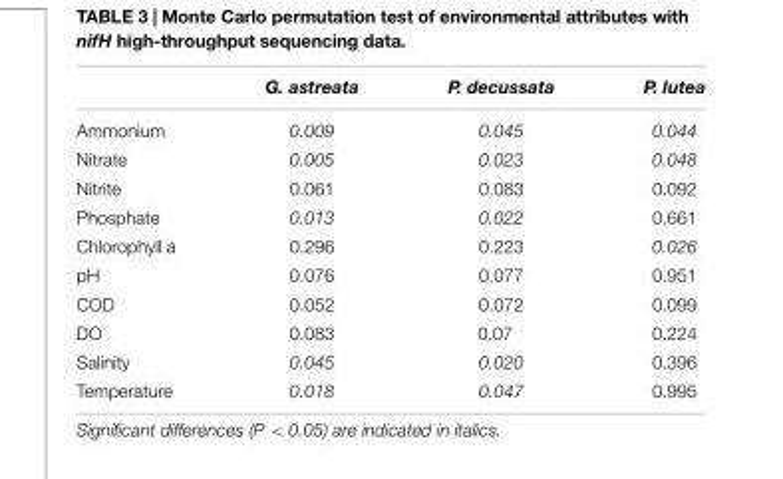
<table><thead><tr><td></td><td>G. astreata</td><td>P. decussata</td><td>P. lutea</td></tr></thead><tbody><tr><td>Ammonium</td><td>0.009</td><td>0.045</td><td>0.044</td></tr><tr><td>Nitrate</td><td>0.005</td><td>0.023</td><td>0.048</td></tr><tr><td>Nitrite</td><td>0.061</td><td>0.083</td><td>0.092</td></tr><tr><td>Phosphate</td><td>0.013</td><td>0.022</td><td>0.661</td></tr><tr><td>Chlorophyll a</td><td>0.296</td><td>0.223</td><td>0.026</td></tr><tr><td>pH</td><td>0.076</td><td>0.077</td><td>0.951</td></tr><tr><td>COD</td><td>0.052</td><td>0.072</td><td>0.099</td></tr><tr><td>DO</td><td>0.083</td><td>0.07</td><td>0.224</td></tr><tr><td>Salinity</td><td>0.045</td><td>0.020</td><td>0.396</td></tr><tr><td>Temperature</td><td>0.018</td><td>0.047</td><td>0.995</td></tr></tbody></table>